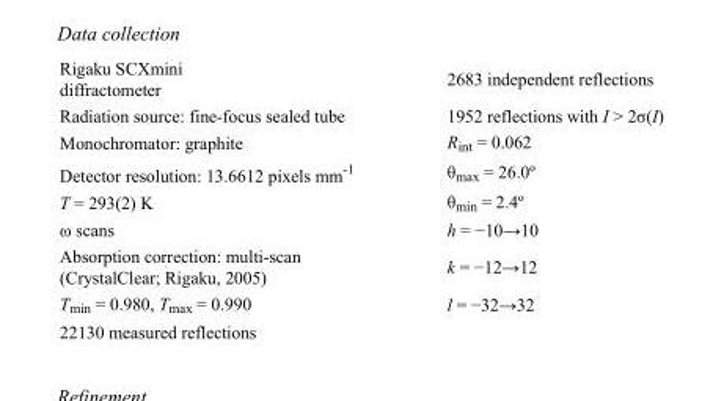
<table><tbody><tr><td>Rigaku SCXmini diffractometer</td><td>2683 independent reflections</td></tr><tr><td>Radiation source: fine-focus sealed tube</td><td>1952 reflections with I &gt; 2σ(I)</td></tr><tr><td>Monochromator: graphite</td><td>R<sub>int</sub> = 0.062</td></tr><tr><td>Detector resolution: 13.6612 pixels mm<sup>-1</sup></td><td>θ<sub>max</sub> = 26.0º</td></tr><tr><td>T = 293(2) K</td><td>θ<sub>min</sub> = 2.4º</td></tr><tr><td>ω scans</td><td>h = −10→10</td></tr><tr><td>Absorption correction: multi-scan (CrystalClear; Rigaku, 2005)</td><td>k = −12→12</td></tr><tr><td>T<sub>min</sub> = 0.980, T<sub>max</sub> = 0.990</td><td>l = −32→32</td></tr><tr><td>22130 measured reflections</td><td></td></tr></tbody></table>